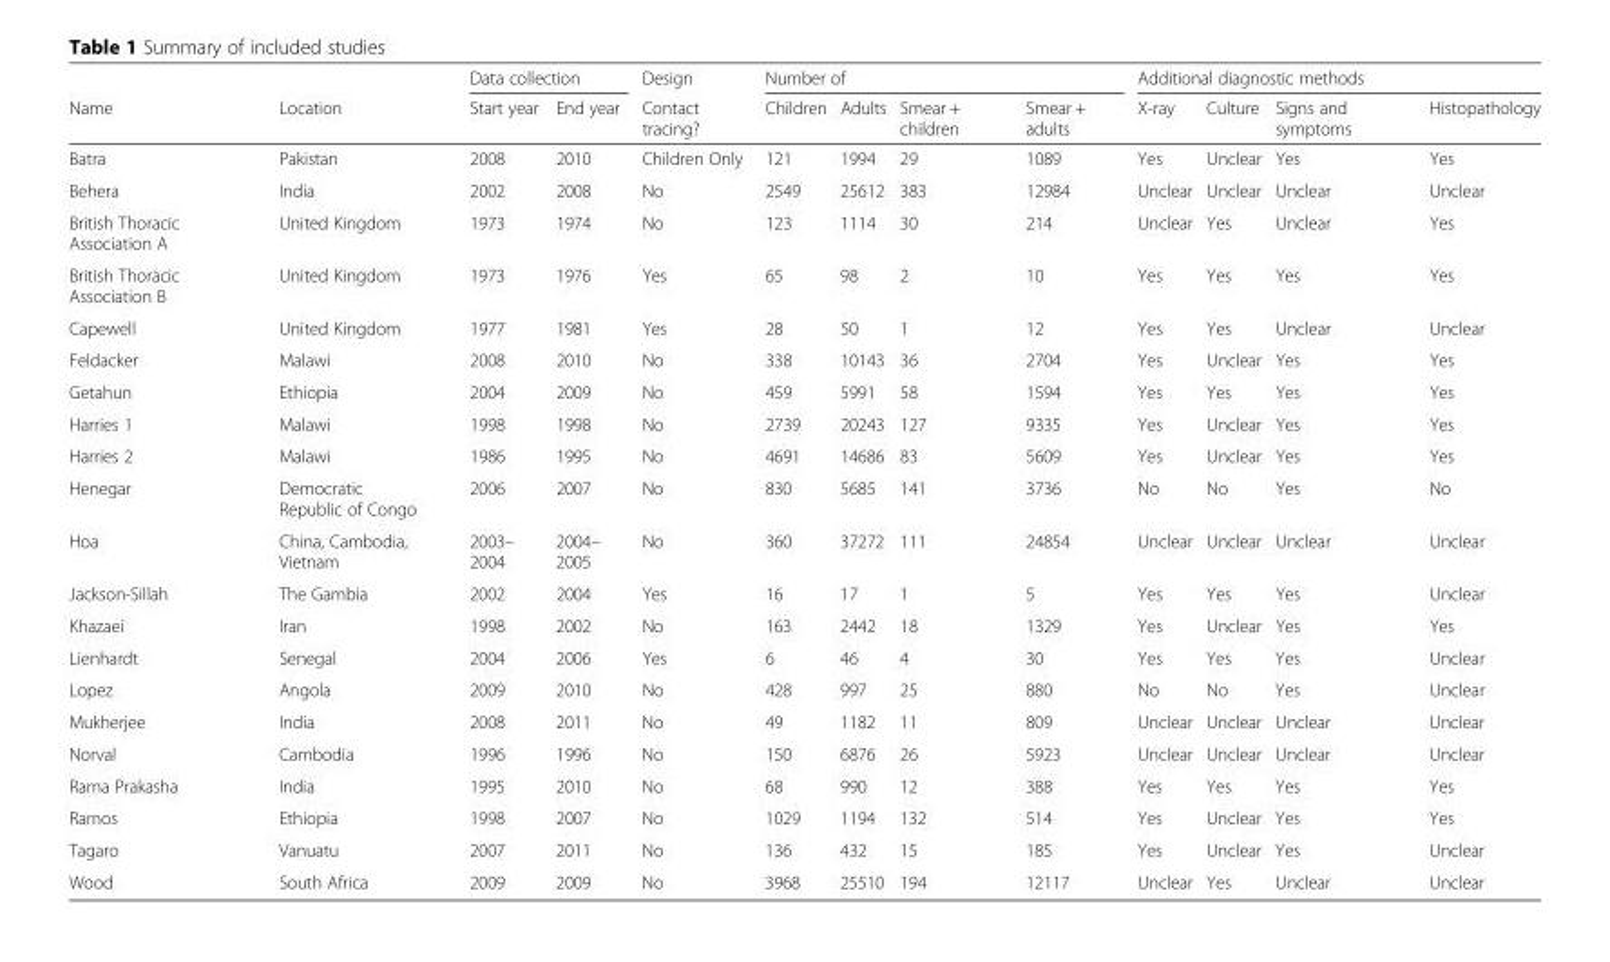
<table><thead><tr><td rowspan="2">Name</td><td rowspan="2">Location</td><td colspan="2">Data collection</td><td rowspan="2">Design Contact tracing?</td><td colspan="4">Number of</td><td colspan="4">Additional diagnostic methods</td></tr><tr><td>Start year</td><td>End year</td><td>Children</td><td>Adults</td><td>Smear + children</td><td>Smear + adults</td><td>X-ray</td><td>Culture</td><td>Signs and symptoms</td><td>Histopathology</td></tr></thead><tbody><tr><td>Batra</td><td>Pakistan</td><td>2008</td><td>2010</td><td>Children Only</td><td>121</td><td>1994</td><td>29</td><td>1089</td><td>Yes</td><td>Unclear</td><td>Yes</td><td>Yes</td></tr><tr><td>Behera</td><td>India</td><td>2002</td><td>2008</td><td>No</td><td>2549</td><td>25612</td><td>383</td><td>12984</td><td>Unclear</td><td>Unclear</td><td>Unclear</td><td>Unclear</td></tr><tr><td>British Thoracic Association A</td><td>United Kingdom</td><td>1973</td><td>1974</td><td>No</td><td>123</td><td>1114</td><td>30</td><td>214</td><td>Unclear</td><td>Yes</td><td>Unclear</td><td>Yes</td></tr><tr><td>British Thoracic Association B</td><td>United Kingdom</td><td>1973</td><td>1976</td><td>Yes</td><td>65</td><td>98</td><td>2</td><td>10</td><td>Yes</td><td>Yes</td><td>Yes</td><td>Yes</td></tr><tr><td>Capewell</td><td>United Kingdom</td><td>1977</td><td>1981</td><td>Yes</td><td>28</td><td>50</td><td>1</td><td>12</td><td>Yes</td><td>Yes</td><td>Unclear</td><td>Unclear</td></tr><tr><td>Feldacker</td><td>Malawi</td><td>2008</td><td>2010</td><td>No</td><td>338</td><td>10143</td><td>36</td><td>2704</td><td>Yes</td><td>Unclear</td><td>Yes</td><td>Yes</td></tr><tr><td>Getahun</td><td>Ethiopia</td><td>2004</td><td>2009</td><td>No</td><td>459</td><td>5991</td><td>58</td><td>1594</td><td>Yes</td><td>Yes</td><td>Yes</td><td>Yes</td></tr><tr><td>Harries 1</td><td>Malawi</td><td>1998</td><td>1998</td><td>No</td><td>2739</td><td>20243</td><td>127</td><td>9335</td><td>Yes</td><td>Unclear</td><td>Yes</td><td>Yes</td></tr><tr><td>Harries 2</td><td>Malawi</td><td>1986</td><td>1995</td><td>No</td><td>4691</td><td>14686</td><td>83</td><td>5609</td><td>Yes</td><td>Unclear</td><td>Yes</td><td>Yes</td></tr><tr><td>Henegar</td><td>Democratic Republic of Congo</td><td>2006</td><td>2007</td><td>No</td><td>830</td><td>5685</td><td>141</td><td>3736</td><td>No</td><td>No</td><td>Yes</td><td>No</td></tr><tr><td>Hoa</td><td>China, Cambodia, Vietnam</td><td>2003– 2004</td><td>2004– 2005</td><td>No</td><td>360</td><td>37272</td><td>111</td><td>24854</td><td>Unclear</td><td>Unclear</td><td>Unclear</td><td>Unclear</td></tr><tr><td>Jackson-Sillah</td><td>The Gambia</td><td>2002</td><td>2004</td><td>Yes</td><td>16</td><td>17</td><td>1</td><td>5</td><td>Yes</td><td>Yes</td><td>Yes</td><td>Unclear</td></tr><tr><td>Khazaei</td><td>Iran</td><td>1998</td><td>2002</td><td>No</td><td>163</td><td>2442</td><td>18</td><td>1329</td><td>Yes</td><td>Unclear</td><td>Yes</td><td>Yes</td></tr><tr><td>Lienhardt</td><td>Senegal</td><td>2004</td><td>2006</td><td>Yes</td><td>6</td><td>46</td><td>4</td><td>30</td><td>Yes</td><td>Yes</td><td>Yes</td><td>Unclear</td></tr><tr><td>Lopez</td><td>Angola</td><td>2009</td><td>2010</td><td>No</td><td>428</td><td>997</td><td>25</td><td>880</td><td>No</td><td>No</td><td>Yes</td><td>Unclear</td></tr><tr><td>Mukherjee</td><td>India</td><td>2008</td><td>2011</td><td>No</td><td>49</td><td>1182</td><td>11</td><td>809</td><td>Unclear</td><td>Unclear</td><td>Unclear</td><td>Unclear</td></tr><tr><td>Norval</td><td>Cambodia</td><td>1996</td><td>1996</td><td>No</td><td>150</td><td>6876</td><td>26</td><td>5923</td><td>Unclear</td><td>Unclear</td><td>Unclear</td><td>Unclear</td></tr><tr><td>Rama Prakasha</td><td>India</td><td>1995</td><td>2010</td><td>No</td><td>68</td><td>990</td><td>12</td><td>388</td><td>Yes</td><td>Yes</td><td>Yes</td><td>Yes</td></tr><tr><td>Ramos</td><td>Ethiopia</td><td>1998</td><td>2007</td><td>No</td><td>1029</td><td>1194</td><td>132</td><td>514</td><td>Yes</td><td>Unclear</td><td>Yes</td><td>Yes</td></tr><tr><td>Tagaro</td><td>Vanuatu</td><td>2007</td><td>2011</td><td>No</td><td>136</td><td>432</td><td>15</td><td>185</td><td>Yes</td><td>Unclear</td><td>Yes</td><td>Unclear</td></tr><tr><td>Wood</td><td>South Africa</td><td>2009</td><td>2009</td><td>No</td><td>3968</td><td>25510</td><td>194</td><td>12117</td><td>Unclear</td><td>Yes</td><td>Unclear</td><td>Unclear</td></tr></tbody></table>